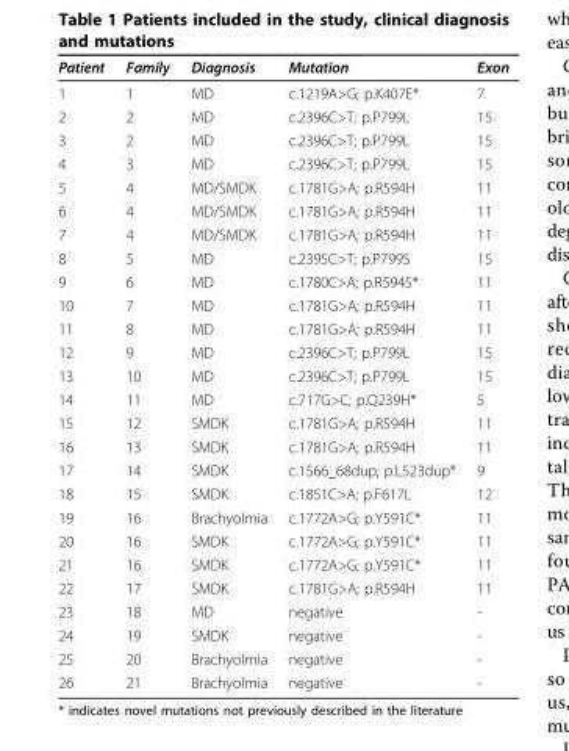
<table><thead><tr><td>Patient</td><td>Family</td><td>Diagnosis</td><td>Mutation</td><td>Exon</td></tr></thead><tbody><tr><td>1</td><td>1</td><td>MD</td><td>c.1219A&gt;G; p.K407E*</td><td>7</td></tr><tr><td>2</td><td>2</td><td>MD</td><td>c.2396C&gt;T; p.P799L</td><td>15</td></tr><tr><td>3</td><td>2</td><td>MD</td><td>c.2396C&gt;T; p.P799L</td><td>15</td></tr><tr><td>4</td><td>3</td><td>MD</td><td>c.2396C&gt;T; p.P799L</td><td>15</td></tr><tr><td>5</td><td>4</td><td>MD/SMDK</td><td>c.1781G&gt;A; p.R594H</td><td>11</td></tr><tr><td>6</td><td>4</td><td>MD/SMDK</td><td>c.1781G&gt;A; p.R594H</td><td>11</td></tr><tr><td>7</td><td>4</td><td>MD/SMDK</td><td>c.1781G&gt;A; p.R594H</td><td>11</td></tr><tr><td>8</td><td>5</td><td>MD</td><td>c.2395C&gt;T; p.P799S</td><td>15</td></tr><tr><td>9</td><td>6</td><td>MD</td><td>c.1780C&gt;A; p.R594S*</td><td>11</td></tr><tr><td>10</td><td>7</td><td>MD</td><td>c.1781G&gt;A; p.R594H</td><td>11</td></tr><tr><td>11</td><td>8</td><td>MD</td><td>c.1781G&gt;A; p.R594H</td><td>11</td></tr><tr><td>12</td><td>9</td><td>MD</td><td>c.2396C&gt;T; p.P799L</td><td>15</td></tr><tr><td>13</td><td>10</td><td>MD</td><td>c.2396C&gt;T; p.P799L</td><td>15</td></tr><tr><td>14</td><td>11</td><td>MD</td><td>c.717G&gt;C; p.Q239H*</td><td>5</td></tr><tr><td>15</td><td>12</td><td>SMDK</td><td>c.1781G&gt;A; p.R594H</td><td>11</td></tr><tr><td>16</td><td>13</td><td>SMDK</td><td>c.1781G&gt;A; p.R594H</td><td>11</td></tr><tr><td>17</td><td>14</td><td>SMDK</td><td>c.1566_68dup; p.L523dup*</td><td>9</td></tr><tr><td>18</td><td>15</td><td>SMDK</td><td>c.1851C&gt;A; p.F617L</td><td>12</td></tr><tr><td>19</td><td>16</td><td>Brachyolmia</td><td>c.1772A&gt;G; p.Y591C*</td><td>11</td></tr><tr><td>20</td><td>16</td><td>SMDK</td><td>c.1772A&gt;G; p.Y591C*</td><td>11</td></tr><tr><td>21</td><td>16</td><td>SMDK</td><td>c.1772A&gt;G; p.Y591C*</td><td>11</td></tr><tr><td>22</td><td>17</td><td>SMDK</td><td>c.1781G&gt;A; p.R594H</td><td>11</td></tr><tr><td>23</td><td>18</td><td>MD</td><td>negative</td><td>-</td></tr><tr><td>24</td><td>19</td><td>SMDK</td><td>negative</td><td>-</td></tr><tr><td>25</td><td>20</td><td>Brachyolmia</td><td>negative</td><td>-</td></tr><tr><td>26</td><td>21</td><td>Brachyolmia</td><td>negative</td><td>-</td></tr></tbody></table>